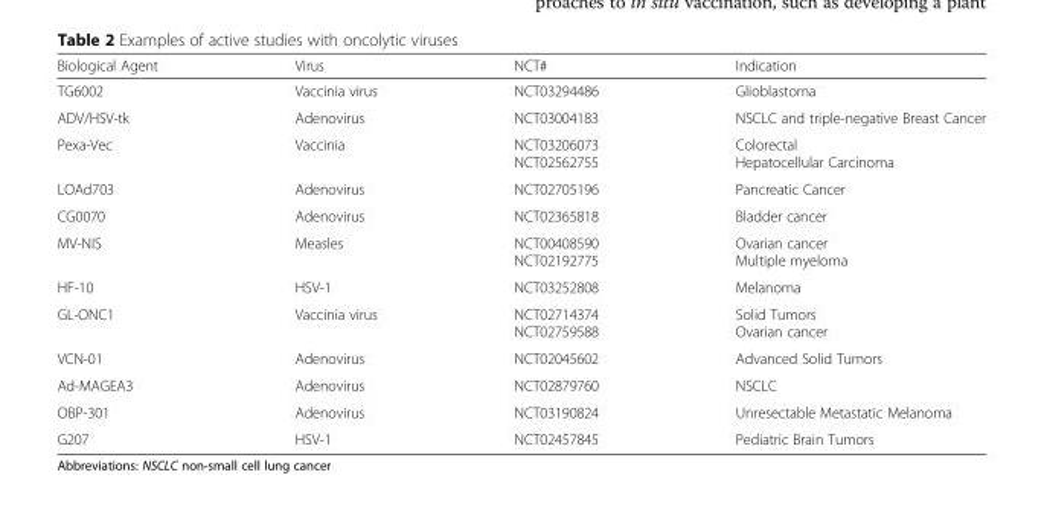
<table><thead><tr><td>Biological Agent</td><td>Virus</td><td>NCT#</td><td>Indication</td></tr></thead><tbody><tr><td>TG6002</td><td>Vaccinia virus</td><td>NCT03294486</td><td>Glioblastoma</td></tr><tr><td>ADV/HSV-tk</td><td>Adenovirus</td><td>NCT03004183</td><td>NSCLC and triple-negative Breast Cancer</td></tr><tr><td>Pexa-Vec</td><td>Vaccinia</td><td>NCT03206073 NCT02562755</td><td>Colorectal Hepatocellular Carcinoma</td></tr><tr><td>LOAd703</td><td>Adenovirus</td><td>NCT02705196</td><td>Pancreatic Cancer</td></tr><tr><td>CG0070</td><td>Adenovirus</td><td>NCT02365818</td><td>Bladder cancer</td></tr><tr><td>MV-NIS</td><td>Measles</td><td>NCT00408590 NCT02192775</td><td>Ovarian cancer Multiple myeloma</td></tr><tr><td>HF-10</td><td>HSV-1</td><td>NCT03252808</td><td>Melanoma</td></tr><tr><td>GL-ONC1</td><td>Vaccinia virus</td><td>NCT02714374 NCT02759588</td><td>Solid Tumors Ovarian cancer</td></tr><tr><td>VCN-01</td><td>Adenovirus</td><td>NCT02045602</td><td>Advanced Solid Tumors</td></tr><tr><td>Ad-MAGEA3</td><td>Adenovirus</td><td>NCT02879760</td><td>NSCLC</td></tr><tr><td>OBP-301</td><td>Adenovirus</td><td>NCT03190824</td><td>Unresectable Metastatic Melanoma</td></tr><tr><td>G207</td><td>HSV-1</td><td>NCT02457845</td><td>Pediatric Brain Tumors</td></tr></tbody></table>